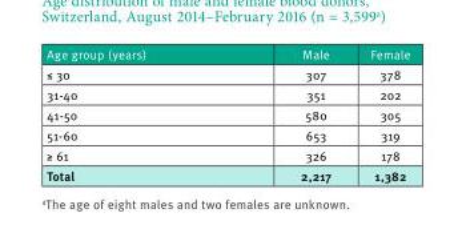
<table><thead><tr><td>Age group (years)</td><td>Male</td><td>Female</td></tr></thead><tbody><tr><td>≤ 30</td><td>307</td><td>378</td></tr><tr><td>31-40</td><td>351</td><td>202</td></tr><tr><td>41-50</td><td>580</td><td>305</td></tr><tr><td>51-60</td><td>653</td><td>319</td></tr><tr><td>≥ 61</td><td>326</td><td>178</td></tr><tr><td>Total</td><td>2,217</td><td>1,382</td></tr></tbody></table>